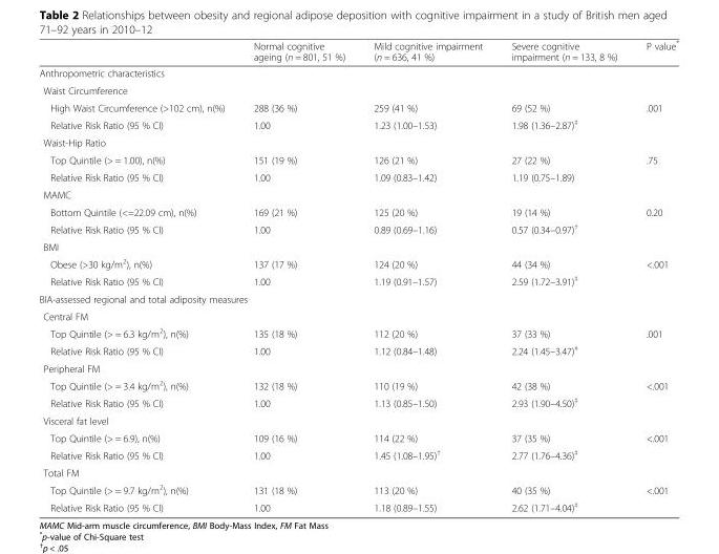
<table><thead><tr><td></td><td>Normal cognitive ageing (n = 801, 51 %)</td><td>Mild cognitive impairment (n = 636, 41 %)</td><td>Severe cognitive impairment (n = 133, 8 %)</td><td>P value*</td></tr></thead><tbody><tr><td colspan="5">Anthropometric characteristics</td></tr><tr><td colspan="5">Waist Circumference</td></tr><tr><td>High Waist Circumference (&gt;102 cm), n(%)</td><td>288 (36 %)</td><td>259 (41 %)</td><td>69 (52 %)</td><td>.001</td></tr><tr><td>Relative Risk Ratio (95 % CI)</td><td>1.00</td><td>1.23 (1.00–1.53)</td><td>1.98 (1.36–2.87)<sup>‡</sup></td><td></td></tr><tr><td colspan="5">Waist-Hip Ratio</td></tr><tr><td>Top Quintile (&gt; = 1.00), n(%)</td><td>151 (19 %)</td><td>126 (21 %)</td><td>27 (22 %)</td><td>.75</td></tr><tr><td>Relative Risk Ratio (95 % CI)</td><td>1.00</td><td>1.09 (0.83–1.42)</td><td>1.19 (0.75–1.89)</td><td></td></tr><tr><td colspan="5">MAMC</td></tr><tr><td>Bottom Quintile (&lt;=22.09 cm), n(%)</td><td>169 (21 %)</td><td>125 (20 %)</td><td>19 (14 %)</td><td>0.20</td></tr><tr><td>Relative Risk Ratio (95 % CI)</td><td>1.00</td><td>0.89 (0.69–1.16)</td><td>0.57 (0.34–0.97)<sup>†</sup></td><td></td></tr><tr><td colspan="5">BMI</td></tr><tr><td>Obese (&gt;30 kg/m<sup>2</sup>), n(%)</td><td>137 (17 %)</td><td>124 (20 %)</td><td>44 (34 %)</td><td>&lt;.001</td></tr><tr><td>Relative Risk Ratio (95 % CI)</td><td>1.00</td><td>1.19 (0.91–1.57)</td><td>2.59 (1.72–3.91)<sup>‡</sup></td><td></td></tr><tr><td colspan="5">BIA-assessed regional and total adiposity measures</td></tr><tr><td colspan="5">Central FM</td></tr><tr><td>Top Quintile (&gt; = 6.3 kg/m<sup>2</sup>), n(%)</td><td>135 (18 %)</td><td>112 (20 %)</td><td>37 (33 %)</td><td>.001</td></tr><tr><td>Relative Risk Ratio (95 % CI)</td><td>1.00</td><td>1.12 (0.84–1.48)</td><td>2.24 (1.45–3.47)<sup>‡</sup></td><td></td></tr><tr><td colspan="5">Peripheral FM</td></tr><tr><td>Top Quintile (&gt; = 3.4 kg/m<sup>2</sup>), n(%)</td><td>132 (18 %)</td><td>110 (19 %)</td><td>42 (38 %)</td><td>&lt;.001</td></tr><tr><td>Relative Risk Ratio (95 % CI)</td><td>1.00</td><td>1.13 (0.85–1.50)</td><td>2.93 (1.90–4.50)<sup>‡</sup></td><td></td></tr><tr><td colspan="5">Visceral fat level</td></tr><tr><td>Top Quintile (&gt; = 6.9), n(%)</td><td>109 (16 %)</td><td>114 (22 %)</td><td>37 (35 %)</td><td>&lt;.001</td></tr><tr><td>Relative Risk Ratio (95 % CI)</td><td>1.00</td><td>1.45 (1.08–1.95)<sup>†</sup></td><td>2.77 (1.76–4.36)<sup>‡</sup></td><td></td></tr><tr><td colspan="5">Total FM</td></tr><tr><td>Top Quintile (&gt; = 9.7 kg/m<sup>2</sup>), n(%)</td><td>131 (18 %)</td><td>113 (20 %)</td><td>40 (35 %)</td><td>&lt;.001</td></tr><tr><td>Relative Risk Ratio (95 % CI)</td><td>1.00</td><td>1.18 (0.89–1.55)</td><td>2.62 (1.71–4.04)<sup>‡</sup></td><td></td></tr></tbody></table>